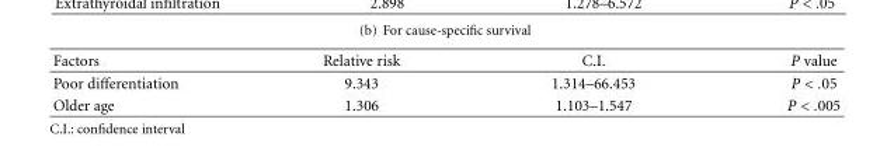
<table><thead><tr><td>Factors</td><td>Relative risk</td><td>C.I.</td><td>P value</td></tr></thead><tbody><tr><td>Poor differentiation</td><td>9.343</td><td>1.314–66.453</td><td>P &lt; .05</td></tr><tr><td>Older age</td><td>1.306</td><td>1.103–1.547</td><td>P &lt; .005</td></tr></tbody></table>